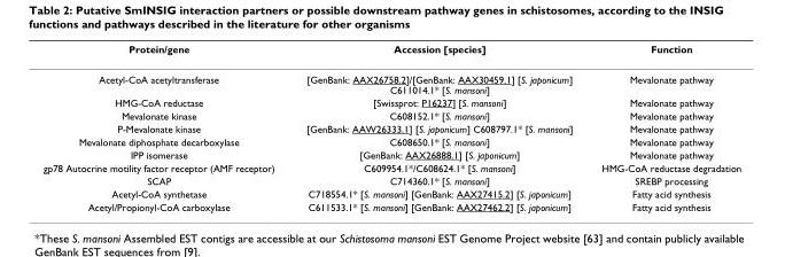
<table><thead><tr><td>Protein/gene</td><td>Accession [species]</td><td>Function</td></tr></thead><tbody><tr><td>Acetyl-CoA acetyltransferase</td><td>[GenBank: AAX26758.2]/[GenBank: AAX30459.1] [S. japonicum] C611014.1* [S. mansoni]</td><td>Mevalonate pathway</td></tr><tr><td>HMG-CoA reductase</td><td>[Swissprot: P16237] [S. mansoni]</td><td>Mevalonate pathway</td></tr><tr><td>Mevalonate kinase</td><td>C608152.1* [S. mansoni]</td><td>Mevalonate pathway</td></tr><tr><td>P-Mevalonate kinase</td><td>[GenBank: AAW26333.1] [S. japonicum] C608797.1* [S. mansoni]</td><td>Mevalonate pathway</td></tr><tr><td>Mevalonate diphosphate decarboxylase</td><td>C608650.1* [S. mansoni]</td><td>Mevalonate pathway</td></tr><tr><td>IPP isomerase</td><td>[GenBank: AAX26888.1] [S. japonicum]</td><td>Mevalonate pathway</td></tr><tr><td>gp78 Autocrine motility factor receptor (AMF receptor)</td><td>C609954.1*/C608624.1* [S. mansoni]</td><td>HMG-CoA reductase degradation</td></tr><tr><td>SCAP</td><td>C714360.1* [S. mansoni]</td><td>SREBP processing</td></tr><tr><td>Acetyl-CoA synthetase</td><td>C718554.1* [S. mansoni] [GenBank: AAX27415.2] [S. japonicum]</td><td>Fatty acid synthesis</td></tr><tr><td>Acetyl/Propionyl-CoA carboxylase</td><td>C611533.1* [S. mansoni] [GenBank: AAX27462.2] [S. japonicum]</td><td>Fatty acid synthesis</td></tr></tbody></table>